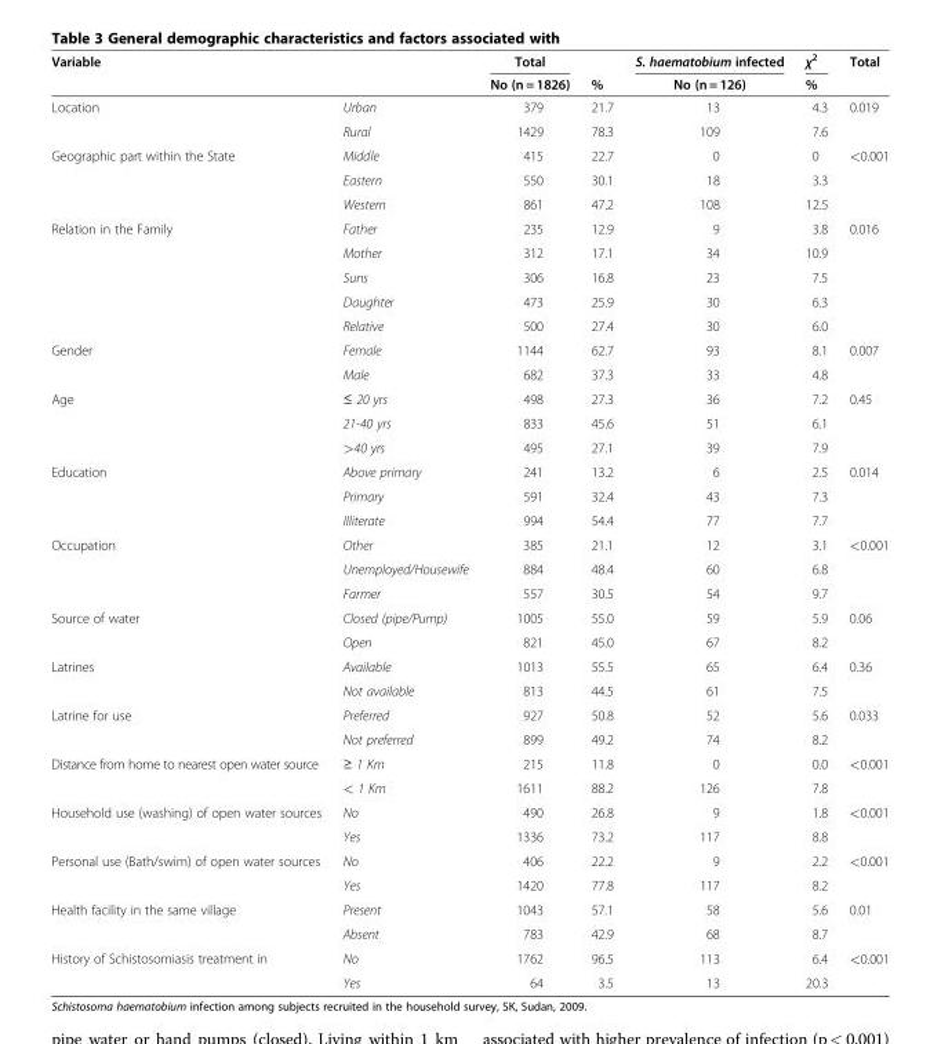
<table><thead><tr><td rowspan="2">Variable</td><td rowspan="2"></td><td rowspan="2">Total No (n = 1826)</td><td rowspan="2">%</td><td rowspan="2">S. haematobium infected No (n = 126)</td><td rowspan="2">χ<sup>2</sup> %</td><td rowspan="2">Total</td></tr><tr></tr></thead><tbody><tr><td rowspan="2">Location</td><td>Urban</td><td>379</td><td>21.7</td><td>13</td><td>4.3</td><td>0.019</td></tr><tr><td>Rural</td><td>1429</td><td>78.3</td><td>109</td><td>7.6</td><td></td></tr><tr><td rowspan="3">Geographic part within the State</td><td>Middle</td><td>415</td><td>22.7</td><td>0</td><td>0</td><td>&lt;0.001</td></tr><tr><td>Eastern</td><td>550</td><td>30.1</td><td>18</td><td>3.3</td><td></td></tr><tr><td>Western</td><td>861</td><td>47.2</td><td>108</td><td>12.5</td><td></td></tr><tr><td rowspan="5">Relation in the Family</td><td>Father</td><td>235</td><td>12.9</td><td>9</td><td>3.8</td><td>0.016</td></tr><tr><td>Mother</td><td>312</td><td>17.1</td><td>34</td><td>10.9</td><td></td></tr><tr><td>Suns</td><td>306</td><td>16.8</td><td>23</td><td>7.5</td><td></td></tr><tr><td>Daughter</td><td>473</td><td>25.9</td><td>30</td><td>6.3</td><td></td></tr><tr><td>Relative</td><td>500</td><td>27.4</td><td>30</td><td>6.0</td><td></td></tr><tr><td rowspan="2">Gender</td><td>Female</td><td>1144</td><td>62.7</td><td>93</td><td>8.1</td><td>0.007</td></tr><tr><td>Male</td><td>682</td><td>37.3</td><td>33</td><td>4.8</td><td></td></tr><tr><td rowspan="3">Age</td><td>≤ 20 yrs</td><td>498</td><td>27.3</td><td>36</td><td>7.2</td><td>0.45</td></tr><tr><td>21-40 yrs</td><td>833</td><td>45.6</td><td>51</td><td>6.1</td><td></td></tr><tr><td>&gt;40 yrs</td><td>495</td><td>27.1</td><td>39</td><td>7.9</td><td></td></tr><tr><td rowspan="3">Education</td><td>Above primary</td><td>241</td><td>13.2</td><td>6</td><td>2.5</td><td>0.014</td></tr><tr><td>Primary</td><td>591</td><td>32.4</td><td>43</td><td>7.3</td><td></td></tr><tr><td>Illiterate</td><td>994</td><td>54.4</td><td>77</td><td>7.7</td><td></td></tr><tr><td rowspan="3">Occupation</td><td>Other</td><td>385</td><td>21.1</td><td>12</td><td>3.1</td><td>&lt;0.001</td></tr><tr><td>Unemployed/Housewife</td><td>884</td><td>48.4</td><td>60</td><td>6.8</td><td></td></tr><tr><td>Farmer</td><td>557</td><td>30.5</td><td>54</td><td>9.7</td><td></td></tr><tr><td rowspan="2">Source of water</td><td>Closed (pipe/Pump)</td><td>1005</td><td>55.0</td><td>59</td><td>5.9</td><td>0.06</td></tr><tr><td>Open</td><td>821</td><td>45.0</td><td>67</td><td>8.2</td><td></td></tr><tr><td rowspan="2">Latrines</td><td>Available</td><td>1013</td><td>55.5</td><td>65</td><td>6.4</td><td>0.36</td></tr><tr><td>Not available</td><td>813</td><td>44.5</td><td>61</td><td>7.5</td><td></td></tr><tr><td rowspan="2">Latrine for use</td><td>Preferred</td><td>927</td><td>50.8</td><td>52</td><td>5.6</td><td>0.033</td></tr><tr><td>Not preferred</td><td>899</td><td>49.2</td><td>74</td><td>8.2</td><td></td></tr><tr><td rowspan="2">Distance from home to nearest open water source</td><td>≥ 1 Km</td><td>215</td><td>11.8</td><td>0</td><td>0.0</td><td>&lt;0.001</td></tr><tr><td>&lt; 1 Km</td><td>1611</td><td>88.2</td><td>126</td><td>7.8</td><td></td></tr><tr><td rowspan="2">Household use (washing) of open water sources</td><td>No</td><td>490</td><td>26.8</td><td>9</td><td>1.8</td><td>&lt;0.001</td></tr><tr><td>Yes</td><td>1336</td><td>73.2</td><td>117</td><td>8.8</td><td></td></tr><tr><td rowspan="2">Personal use (Bath/swim) of open water sources</td><td>No</td><td>406</td><td>22.2</td><td>9</td><td>2.2</td><td>&lt;0.001</td></tr><tr><td>Yes</td><td>1420</td><td>77.8</td><td>117</td><td>8.2</td><td></td></tr><tr><td rowspan="2">Health facility in the same village</td><td>Present</td><td>1043</td><td>57.1</td><td>58</td><td>5.6</td><td>0.01</td></tr><tr><td>Absent</td><td>783</td><td>42.9</td><td>68</td><td>8.7</td><td></td></tr><tr><td rowspan="2">History of Schistosomiasis treatment in</td><td>No</td><td>1762</td><td>96.5</td><td>113</td><td>6.4</td><td>&lt;0.001</td></tr><tr><td>Yes</td><td>64</td><td>3.5</td><td>13</td><td>20.3</td><td></td></tr></tbody></table>